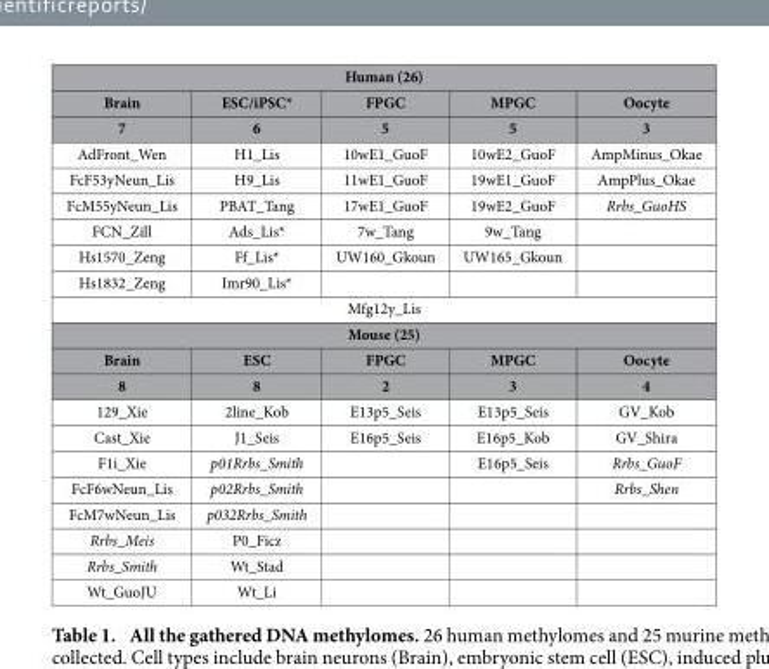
<table><thead><tr><td colspan="5">Human (26)</td></tr><tr><td rowspan="2">Brain 7</td><td rowspan="2">ESC/iPSC* 6</td><td rowspan="2">FPGC 5</td><td rowspan="2">MPGC 5</td><td rowspan="2">Oocyte 3</td></tr><tr></tr></thead><tbody><tr><td>AdFront_Wen</td><td>H1_Lis</td><td>10wE1_GuoF</td><td>10wE2_GuoF</td><td>AmpMinus_Okae</td></tr><tr><td>FcF53yNeun_Lis</td><td>H9_Lis</td><td>11wE1_GuoF</td><td>19wE1_GuoF</td><td>AmpPlus_Okae</td></tr><tr><td>FcM55yNeun_Lis</td><td>PBAT_Tang</td><td>17wE1_GuoF</td><td>19wE2_GuoF</td><td>Rrbs_GuoHS</td></tr><tr><td>FCN_Zill</td><td>Ads_Lis*</td><td>7w_Tang</td><td>9w_Tang</td><td></td></tr><tr><td>Hs1570_Zeng</td><td>Ff_Lis*</td><td>UW160_Gkoun</td><td>UW165_Gkoun</td><td></td></tr><tr><td>Hs1832_Zeng</td><td>Imr90_Lis*</td><td></td><td></td><td></td></tr><tr><td colspan="5">Mfg12y_Lis</td></tr><tr><td colspan="5">Mouse (25)</td></tr><tr><td>Brain</td><td>ESC</td><td>FPGC</td><td>MPGC</td><td>Oocyte</td></tr><tr><td>8</td><td>8</td><td>2</td><td>3</td><td>4</td></tr><tr><td>129_Xie</td><td>2line_Kob</td><td>E13p5_Seis</td><td>E13p5_Seis</td><td>GV_Kob</td></tr><tr><td>Cast_Xie</td><td>J1_Seis</td><td>E16p5_Seis</td><td>E16p5_Kob</td><td>GV_Shira</td></tr><tr><td>F1i_Xie</td><td>p01Rrbs_Smith</td><td></td><td>E16p5_Seis</td><td>Rrbs_GuoF</td></tr><tr><td>FcF6wNeun_Lis</td><td>p02Rrbs_Smith</td><td></td><td></td><td>Rrbs_Shen</td></tr><tr><td>FcM7wNeun_Lis</td><td>p032Rrbs_Smith</td><td></td><td></td><td></td></tr><tr><td>Rrbs_Meis</td><td>P0_Ficz</td><td></td><td></td><td></td></tr><tr><td>Rrbs_Smith</td><td>Wt_Stad</td><td></td><td></td><td></td></tr><tr><td>Wt_GuoJU</td><td>Wt_Li</td><td></td><td></td><td></td></tr></tbody></table>